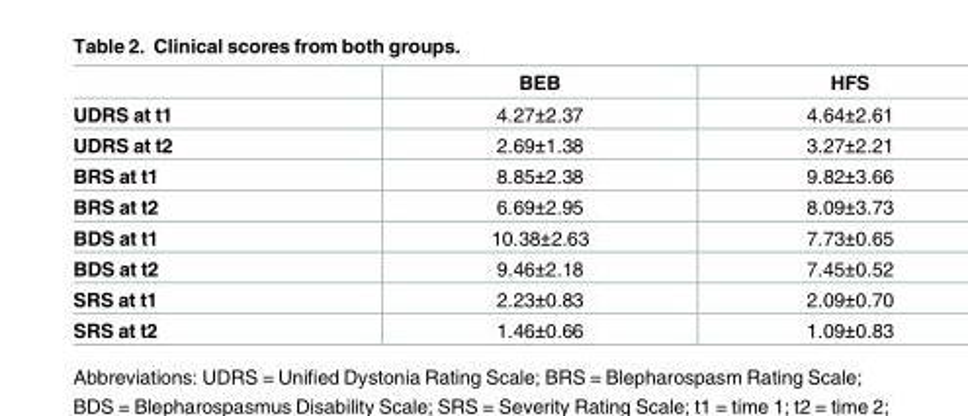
<table><thead><tr><td></td><td>BEB</td><td>HFS</td></tr></thead><tbody><tr><td>UDRS at t1</td><td>4.27±2.37</td><td>4.64±2.61</td></tr><tr><td>UDRS at t2</td><td>2.69±1.38</td><td>3.27±2.21</td></tr><tr><td>BRS at t1</td><td>8.85±2.38</td><td>9.82±3.66</td></tr><tr><td>BRS at t2</td><td>6.69±2.95</td><td>8.09±3.73</td></tr><tr><td>BDS at t1</td><td>10.38±2.63</td><td>7.73±0.65</td></tr><tr><td>BDS at t2</td><td>9.46±2.18</td><td>7.45±0.52</td></tr><tr><td>SRS at t1</td><td>2.23±0.83</td><td>2.09±0.70</td></tr><tr><td>SRS at t2</td><td>1.46±0.66</td><td>1.09±0.83</td></tr></tbody></table>